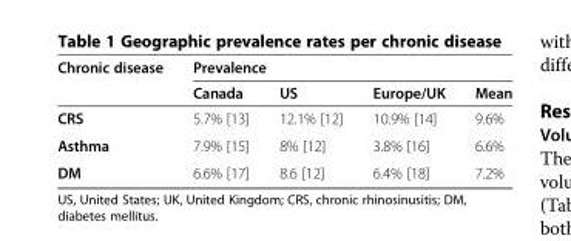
<table><thead><tr><td rowspan="2">Chronic disease</td><td colspan="4">Prevalence</td></tr><tr><td>Canada</td><td>US</td><td>Europe/UK</td><td>Mean</td></tr></thead><tbody><tr><td>CRS</td><td>5.7% [13]</td><td>12.1% [12]</td><td>10.9% [14]</td><td>9.6%</td></tr><tr><td>Asthma</td><td>7.9% [15]</td><td>8% [12]</td><td>3.8% [16]</td><td>6.6%</td></tr><tr><td>DM</td><td>6.6% [17]</td><td>8.6 [12]</td><td>6.4% [18]</td><td>7.2%</td></tr></tbody></table>